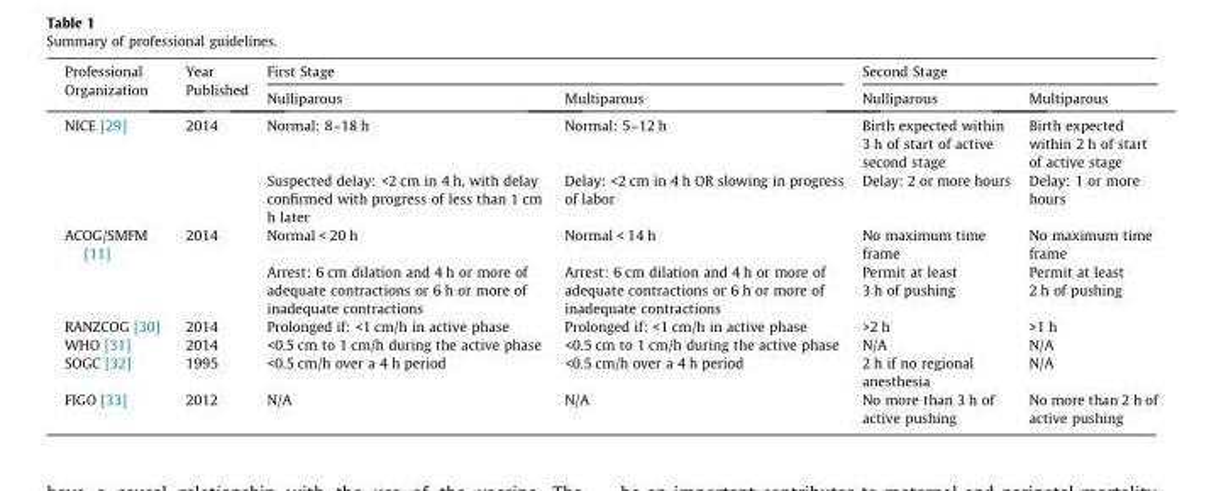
<table><thead><tr><td rowspan="2">Professional Organization</td><td rowspan="2">Year Published</td><td colspan="2">First Stage</td><td colspan="2">Second Stage</td></tr><tr><td>Nulliparous</td><td>Multiparous</td><td>Nulliparous</td><td>Multiparous</td></tr></thead><tbody><tr><td rowspan="2">NICE [29]</td><td rowspan="2">2014</td><td>Normal: 8–18 h</td><td>Normal: 5–12 h</td><td>Birth expected within 3 h of start of active second stage</td><td>Birth expected within 2 h of start of active stage</td></tr><tr><td>Suspected delay: &lt;2 cm in 4 h, with delay confirmed with progress of less than 1 cm h later</td><td>Delay: &lt;2 cm in 4 h OR slowing in progress of labor</td><td>Delay: 2 or more hours</td><td>Delay: 1 or more hours</td></tr><tr><td rowspan="3">ACOG/SMFM [11]</td><td rowspan="3">2014</td><td>Normal &lt; 20 h</td><td>Normal &lt; 14 h</td><td>No maximum time frame</td><td>No maximum time frame</td></tr><tr><td rowspan="2">Arrest: 6 cm dilation and 4 h or more of adequate contractions or 6 h or more of inadequate contractions</td><td rowspan="2">Arrest: 6 cm dilation and 4 h or more of adequate contractions or 6 h or more of inadequate contractions</td><td>Permit at least</td><td>Permit at least</td></tr><tr><td>3 h of pushing</td><td>2 h of pushing</td></tr><tr><td>RANZCOG [30]</td><td>2014</td><td>Prolonged if: &lt;1 cm/h in active phase</td><td>Prolonged if: &lt;1 cm/h in active phase</td><td>&gt;2 h</td><td>&gt;1 h</td></tr><tr><td>WHO [31]</td><td>2014</td><td>&lt;0.5 cm to 1 cm/h during the active phase</td><td>&lt;0.5 cm to 1 cm/h during the active phase</td><td>N/A</td><td>N/A</td></tr><tr><td>SOGC [32]</td><td>1995</td><td>&lt;0.5 cm/h over a 4 h period</td><td>&lt;0.5 cm/h over a 4 h period</td><td>2 h if no regional anesthesia</td><td>N/A</td></tr><tr><td>FIGO [33]</td><td>2012</td><td>N/A</td><td>N/A</td><td>No more than 3 h of active pushing</td><td>No more than 2 h of active pushing</td></tr></tbody></table>